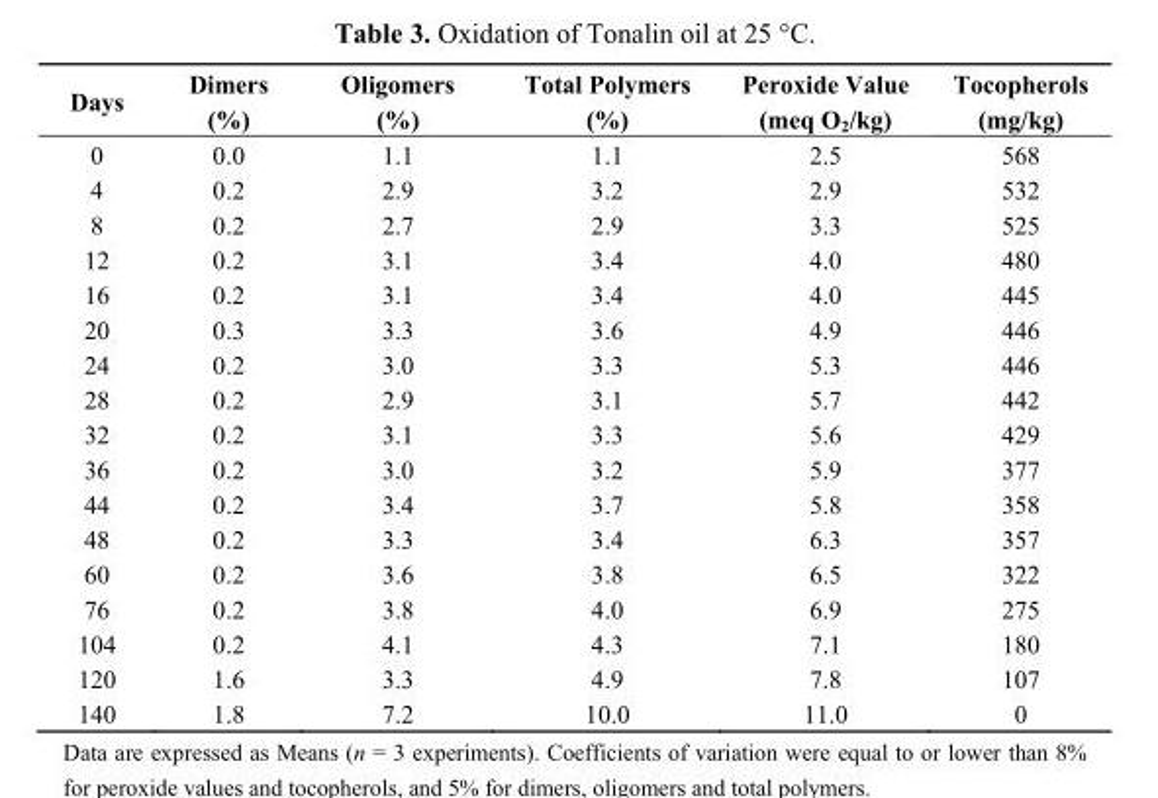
<table><thead><tr><td>Days</td><td>Dimers (%)</td><td>Oligomers (%)</td><td>Total Polymers (%)</td><td>Peroxide Value (meq O<sub>2</sub>/kg)</td><td>Tocopherols (mg/kg)</td></tr></thead><tbody><tr><td>0</td><td>0.0</td><td>1.1</td><td>1.1</td><td>2.5</td><td>568</td></tr><tr><td>4</td><td>0.2</td><td>2.9</td><td>3.2</td><td>2.9</td><td>532</td></tr><tr><td>8</td><td>0.2</td><td>2.7</td><td>2.9</td><td>3.3</td><td>525</td></tr><tr><td>12</td><td>0.2</td><td>3.1</td><td>3.4</td><td>4.0</td><td>480</td></tr><tr><td>16</td><td>0.2</td><td>3.1</td><td>3.4</td><td>4.0</td><td>445</td></tr><tr><td>20</td><td>0.3</td><td>3.3</td><td>3.6</td><td>4.9</td><td>446</td></tr><tr><td>24</td><td>0.2</td><td>3.0</td><td>3.3</td><td>5.3</td><td>446</td></tr><tr><td>28</td><td>0.2</td><td>2.9</td><td>3.1</td><td>5.7</td><td>442</td></tr><tr><td>32</td><td>0.2</td><td>3.1</td><td>3.3</td><td>5.6</td><td>429</td></tr><tr><td>36</td><td>0.2</td><td>3.0</td><td>3.2</td><td>5.9</td><td>377</td></tr><tr><td>44</td><td>0.2</td><td>3.4</td><td>3.7</td><td>5.8</td><td>358</td></tr><tr><td>48</td><td>0.2</td><td>3.3</td><td>3.4</td><td>6.3</td><td>357</td></tr><tr><td>60</td><td>0.2</td><td>3.6</td><td>3.8</td><td>6.5</td><td>322</td></tr><tr><td>76</td><td>0.2</td><td>3.8</td><td>4.0</td><td>6.9</td><td>275</td></tr><tr><td>104</td><td>0.2</td><td>4.1</td><td>4.3</td><td>7.1</td><td>180</td></tr><tr><td>120</td><td>1.6</td><td>3.3</td><td>4.9</td><td>7.8</td><td>107</td></tr><tr><td>140</td><td>1.8</td><td>7.2</td><td>10.0</td><td>11.0</td><td>0</td></tr></tbody></table>